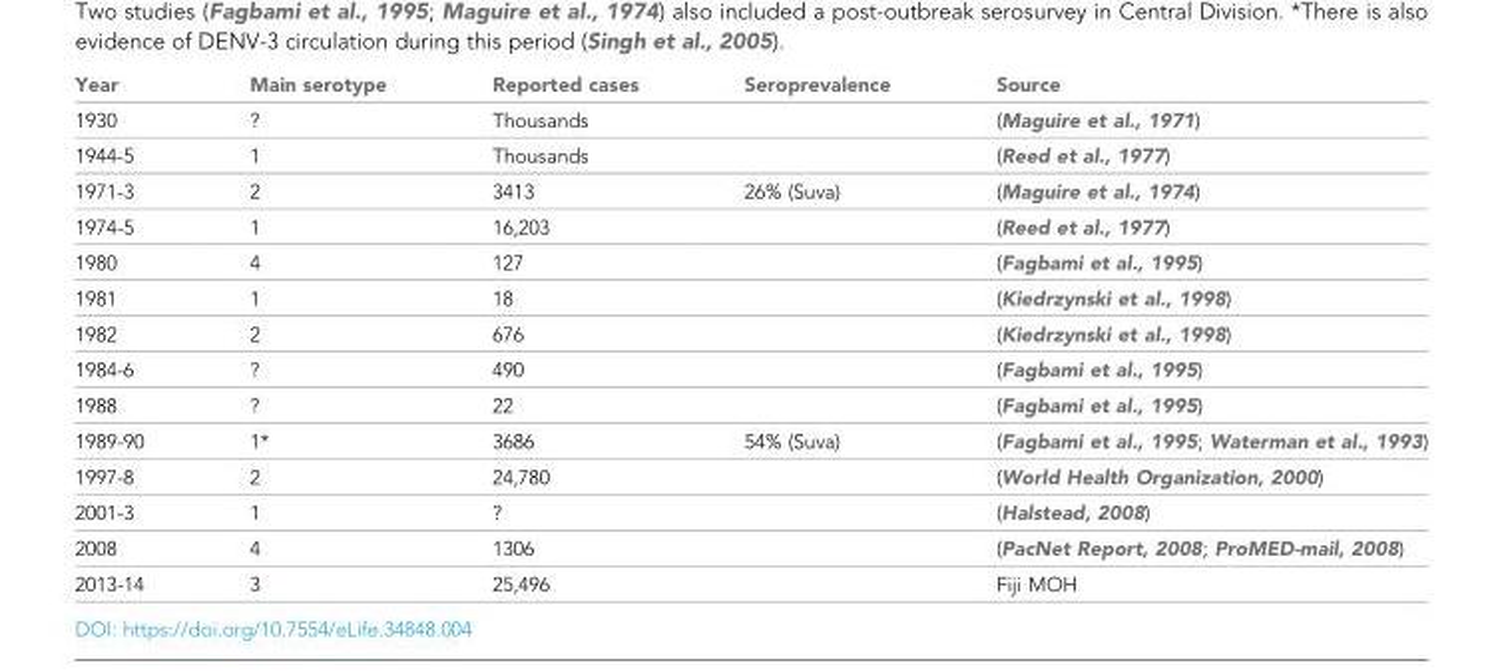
<table><thead><tr><td>Year</td><td>Main serotype</td><td>Reported cases</td><td>Seroprevalence</td><td>Source</td></tr></thead><tbody><tr><td>1930</td><td>?</td><td>Thousands</td><td></td><td>(Maguire et al., 1971)</td></tr><tr><td>1944-5</td><td>1</td><td>Thousands</td><td></td><td>(Reed et al., 1977)</td></tr><tr><td>1971-3</td><td>2</td><td>3413</td><td>26% (Suva)</td><td>(Maguire et al., 1974)</td></tr><tr><td>1974-5</td><td>1</td><td>16,203</td><td></td><td>(Reed et al., 1977)</td></tr><tr><td>1980</td><td>4</td><td>127</td><td></td><td>(Fagbami et al., 1995)</td></tr><tr><td>1981</td><td>1</td><td>18</td><td></td><td>(Kiedrzynski et al., 1998)</td></tr><tr><td>1982</td><td>2</td><td>676</td><td></td><td>(Kiedrzynski et al., 1998)</td></tr><tr><td>1984-6</td><td>?</td><td>490</td><td></td><td>(Fagbami et al., 1995)</td></tr><tr><td>1988</td><td>?</td><td>22</td><td></td><td>(Fagbami et al., 1995)</td></tr><tr><td>1989-90</td><td>1*</td><td>3686</td><td>54% (Suva)</td><td>(Fagbami et al., 1995; Waterman et al., 1993)</td></tr><tr><td>1997-8</td><td>2</td><td>24,780</td><td></td><td>(World Health Organization, 2000)</td></tr><tr><td>2001-3</td><td>1</td><td>?</td><td></td><td>(Halstead, 2008)</td></tr><tr><td>2008</td><td>4</td><td>1306</td><td></td><td>(PacNet Report, 2008; ProMED-mail, 2008)</td></tr><tr><td>2013-14</td><td>3</td><td>25,496</td><td></td><td>Fiji MOH</td></tr></tbody></table>